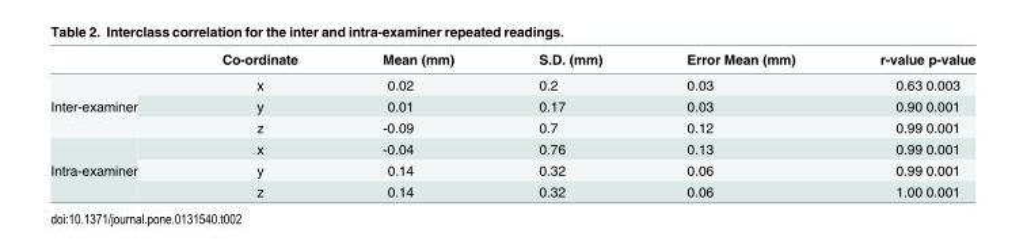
<table><thead><tr><td></td><td>Co-ordinate</td><td>Mean (mm)</td><td>S.D. (mm)</td><td>Error Mean (mm)</td><td>r-value p-value</td></tr></thead><tbody><tr><td rowspan="3">Inter-examiner</td><td>x</td><td>0.02</td><td>0.2</td><td>0.03</td><td>0.63 0.003</td></tr><tr><td>y</td><td>0.01</td><td>0.17</td><td>0.03</td><td>0.90 0.001</td></tr><tr><td>z</td><td>-0.09</td><td>0.7</td><td>0.12</td><td>0.99 0.001</td></tr><tr><td rowspan="3">Intra-examiner</td><td>x</td><td>-0.04</td><td>0.76</td><td>0.13</td><td>0.99 0.001</td></tr><tr><td>y</td><td>0.14</td><td>0.32</td><td>0.06</td><td>0.99 0.001</td></tr><tr><td>z</td><td>0.14</td><td>0.32</td><td>0.06</td><td>1.00 0.001</td></tr></tbody></table>